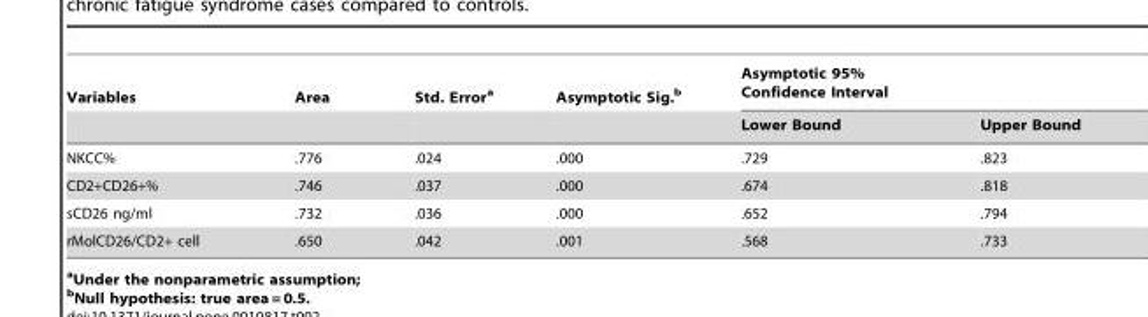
<table><thead><tr><td rowspan="2">Variables</td><td rowspan="2">Area</td><td rowspan="2">Std. Error<sup>a</sup></td><td rowspan="2">Asymptotic Sig.<sup>b</sup></td><td colspan="2">Asymptotic 95% Confidence Interval</td></tr><tr><td>Lower Bound</td><td>Upper Bound</td></tr></thead><tbody><tr><td>NKCC%</td><td>.776</td><td>.024</td><td>.000</td><td>.729</td><td>.823</td></tr><tr><td>CD2+CD26+%</td><td>.746</td><td>.037</td><td>.000</td><td>.674</td><td>.818</td></tr><tr><td>sCD26 ng/ml</td><td>.732</td><td>.036</td><td>.000</td><td>.652</td><td>.794</td></tr><tr><td>rMolCD26/CD2+ cell</td><td>.650</td><td>.042</td><td>.001</td><td>.568</td><td>.733</td></tr></tbody></table>